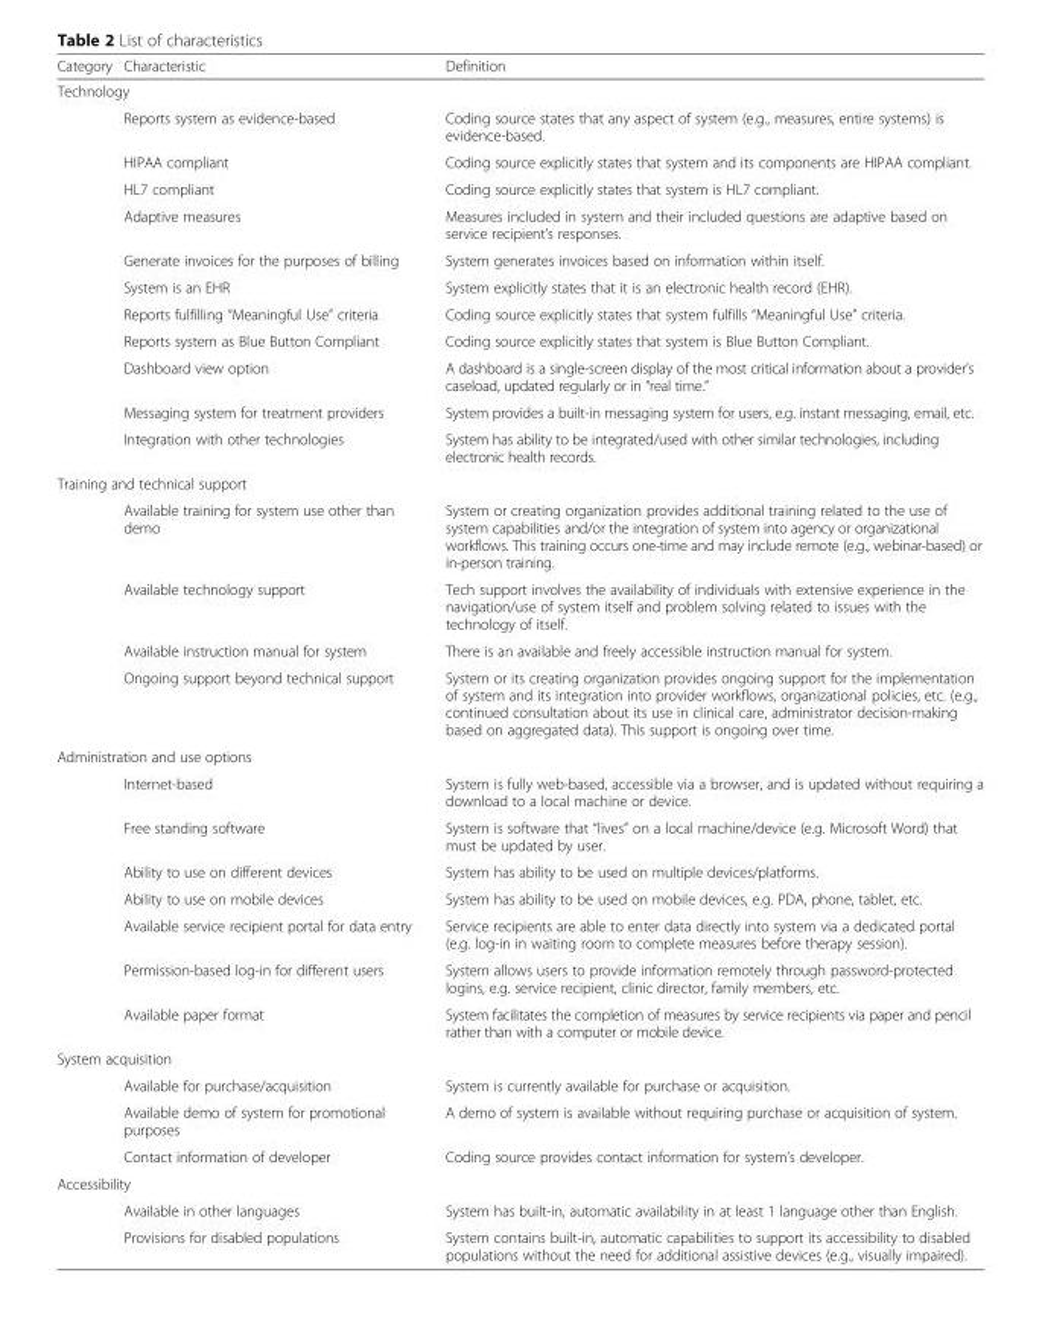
<table><thead><tr><td>Category</td><td>Characteristic</td><td>Definition</td></tr></thead><tbody><tr><td colspan="3">Technology</td></tr><tr><td></td><td>Reports system as evidence-based</td><td>Coding source states that any aspect of system (e.g., measures, entire systems) is evidence-based.</td></tr><tr><td></td><td>HIPAA compliant</td><td>Coding source explicitly states that system and its components are HIPAA compliant.</td></tr><tr><td></td><td>HL7 compliant</td><td>Coding source explicitly states that system is HL7 compliant.</td></tr><tr><td></td><td>Adaptive measures</td><td>Measures included in system and their included questions are adaptive based on service recipient’s responses.</td></tr><tr><td></td><td>Generate invoices for the purposes of billing</td><td>System generates invoices based on information within itself.</td></tr><tr><td></td><td>System is an EHR</td><td>System explicitly states that it is an electronic health record (EHR).</td></tr><tr><td></td><td>Reports fulfilling “Meaningful Use” criteria</td><td>Coding source explicitly states that system fulfills “Meaningful Use” criteria.</td></tr><tr><td></td><td>Reports system as Blue Button Compliant</td><td>Coding source explicitly states that system is Blue Button Compliant.</td></tr><tr><td></td><td>Dashboard view option</td><td>A dashboard is a single-screen display of the most critical information about a provider’s caseload, updated regularly or in “real time.”</td></tr><tr><td></td><td>Messaging system for treatment providers</td><td>System provides a built-in messaging system for users, e.g. instant messaging, email, etc.</td></tr><tr><td></td><td>Integration with other technologies</td><td>System has ability to be integrated/used with other similar technologies, including electronic health records.</td></tr><tr><td colspan="3">Training and technical support</td></tr><tr><td></td><td>Available training for system use other than demo</td><td>System or creating organization provides additional training related to the use of system capabilities and/or the integration of system into agency or organizational workflows. This training occurs one-time and may include remote (e.g., webinar-based) or in-person training.</td></tr><tr><td></td><td>Available technology support</td><td>Tech support involves the availability of individuals with extensive experience in the navigation/use of system itself and problem solving related to issues with the technology of itself.</td></tr><tr><td></td><td>Available instruction manual for system</td><td>There is an available and freely accessible instruction manual for system.</td></tr><tr><td></td><td>Ongoing support beyond technical support</td><td>System or its creating organization provides ongoing support for the implementation of system and its integration into provider workflows, organizational policies, etc. (e.g., continued consultation about its use in clinical care, administrator decision-making based on aggregated data). This support is ongoing over time.</td></tr><tr><td colspan="3">Administration and use options</td></tr><tr><td></td><td>Internet-based</td><td>System is fully web-based, accessible via a browser, and is updated without requiring a download to a local machine or device.</td></tr><tr><td></td><td>Free standing software</td><td>System is software that “lives” on a local machine/device (e.g. Microsoft Word) that must be updated by user.</td></tr><tr><td></td><td>Ability to use on different devices</td><td>System has ability to be used on multiple devices/platforms.</td></tr><tr><td></td><td>Ability to use on mobile devices</td><td>System has ability to be used on mobile devices, e.g. PDA, phone, tablet, etc.</td></tr><tr><td></td><td>Available service recipient portal for data entry</td><td>Service recipients are able to enter data directly into system via a dedicated portal (e.g. log-in in waiting room to complete measures before therapy session).</td></tr><tr><td></td><td>Permission-based log-in for different users</td><td>System allows users to provide information remotely through password-protected logins, e.g. service recipient, clinic director, family members, etc.</td></tr><tr><td></td><td>Available paper format</td><td>System facilitates the completion of measures by service recipients via paper and pencil rather than with a computer or mobile device.</td></tr><tr><td colspan="3">System acquisition</td></tr><tr><td></td><td>Available for purchase/acquisition</td><td>System is currently available for purchase or acquisition.</td></tr><tr><td></td><td>Available demo of system for promotional purposes</td><td>A demo of system is available without requiring purchase or acquisition of system.</td></tr><tr><td></td><td>Contact information of developer</td><td>Coding source provides contact information for system’s developer.</td></tr><tr><td colspan="3">Accessibility</td></tr><tr><td></td><td>Available in other languages</td><td>System has built-in, automatic availability in at least 1 language other than English.</td></tr><tr><td></td><td>Provisions for disabled populations</td><td>System contains built-in, automatic capabilities to support its accessibility to disabled populations without the need for additional assistive devices (e.g., visually impaired).</td></tr></tbody></table>